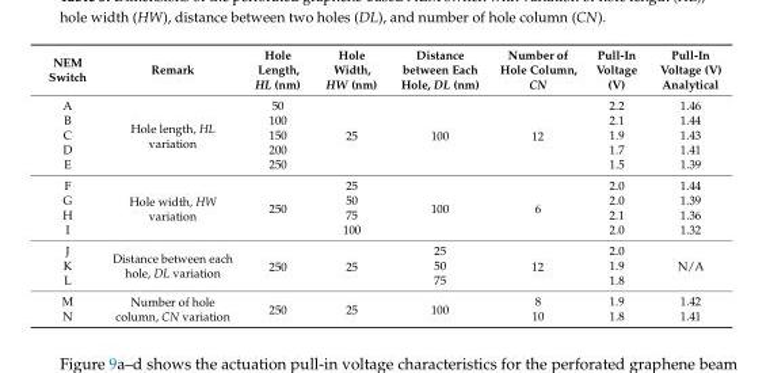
<table><thead><tr><td>NEM Switch</td><td>Remark</td><td>Hole Length, HL (nm)</td><td>Hole Width, HW (nm)</td><td>Distance between Each Hole, DL (nm)</td><td>Number of Hole Column, CN</td><td>Pull-In Voltage (V)</td><td>Pull-In Voltage (V) Analytical</td></tr></thead><tbody><tr><td>A</td><td rowspan="5">Hole length, HL variation</td><td>50</td><td rowspan="5">25</td><td rowspan="5">100</td><td rowspan="5">12</td><td>2.2</td><td>1.46</td></tr><tr><td>B</td><td>100</td><td>2.1</td><td>1.44</td></tr><tr><td>C</td><td>150</td><td>1.9</td><td>1.43</td></tr><tr><td>D</td><td>200</td><td>1.7</td><td>1.41</td></tr><tr><td>E</td><td>250</td><td>1.5</td><td>1.39</td></tr><tr><td>F</td><td rowspan="4">Hole width, HW variation</td><td rowspan="4">250</td><td>25</td><td rowspan="4">100</td><td rowspan="4">6</td><td>2.0</td><td>1.44</td></tr><tr><td>G</td><td>50</td><td>2.0</td><td>1.39</td></tr><tr><td>H</td><td>75</td><td>2.1</td><td>1.36</td></tr><tr><td>I</td><td>100</td><td>2.0</td><td>1.32</td></tr><tr><td>J</td><td rowspan="3">Distance between each hole, DL variation</td><td rowspan="3">250</td><td rowspan="3">25</td><td>25</td><td rowspan="3">12</td><td>2.0</td><td rowspan="3">N/A</td></tr><tr><td>K</td><td>50</td><td>1.9</td></tr><tr><td>L</td><td>75</td><td>1.8</td></tr><tr><td>M</td><td rowspan="2">Number of hole column, CN variation</td><td rowspan="2">250</td><td rowspan="2">25</td><td rowspan="2">100</td><td>8</td><td>1.9</td><td>1.42</td></tr><tr><td>N</td><td>10</td><td>1.8</td><td>1.41</td></tr></tbody></table>